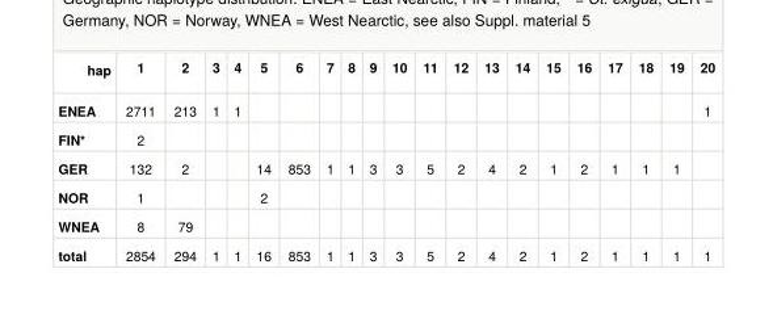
<table><tbody><tr><td>hap</td><td>1</td><td>2</td><td>3</td><td>4</td><td>5</td><td>6</td><td>7</td><td>8</td><td>9</td><td>10</td><td>11</td><td>12</td><td>13</td><td>14</td><td>15</td><td>16</td><td>17</td><td>18</td><td>19</td><td>20</td></tr><tr><td>ENEA</td><td>2711</td><td>213</td><td>1</td><td>1</td><td></td><td></td><td></td><td></td><td></td><td></td><td></td><td></td><td></td><td></td><td></td><td></td><td></td><td></td><td></td><td>1</td></tr><tr><td>FIN*</td><td>2</td><td></td><td></td><td></td><td></td><td></td><td></td><td></td><td></td><td></td><td></td><td></td><td></td><td></td><td></td><td></td><td></td><td></td><td></td><td></td></tr><tr><td>GER</td><td>132</td><td>2</td><td></td><td></td><td>14</td><td>853</td><td>1</td><td>1</td><td>3</td><td>3</td><td>5</td><td>2</td><td>4</td><td>2</td><td>1</td><td>2</td><td>1</td><td>1</td><td>1</td><td></td></tr><tr><td>NOR</td><td>1</td><td></td><td></td><td></td><td>2</td><td></td><td></td><td></td><td></td><td></td><td></td><td></td><td></td><td></td><td></td><td></td><td></td><td></td><td></td><td></td></tr><tr><td>WNEA</td><td>8</td><td>79</td><td></td><td></td><td></td><td></td><td></td><td></td><td></td><td></td><td></td><td></td><td></td><td></td><td></td><td></td><td></td><td></td><td></td><td></td></tr><tr><td>total</td><td>2854</td><td>294</td><td>1</td><td>1</td><td>16</td><td>853</td><td>1</td><td>1</td><td>3</td><td>3</td><td>5</td><td>2</td><td>4</td><td>2</td><td>1</td><td>2</td><td>1</td><td>1</td><td>1</td><td>1</td></tr></tbody></table>